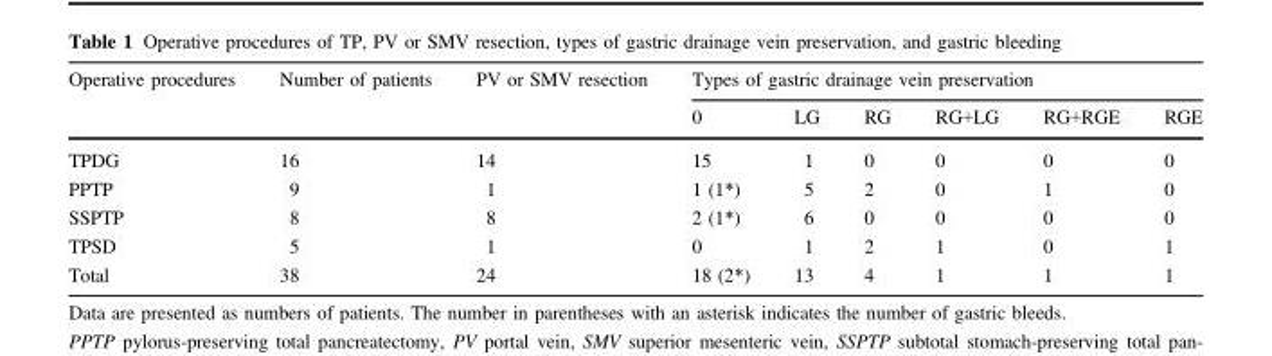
<table><thead><tr><td rowspan="2">Operative procedures</td><td rowspan="2">Number of patients</td><td rowspan="2">PV or SMV resection</td><td colspan="6">Types of gastric drainage vein preservation</td></tr><tr><td>0</td><td>LG</td><td>RG</td><td>RG+LG</td><td>RG+RGE</td><td>RGE</td></tr></thead><tbody><tr><td>TPDG</td><td>16</td><td>14</td><td>15</td><td>1</td><td>0</td><td>0</td><td>0</td><td>0</td></tr><tr><td>PPTP</td><td>9</td><td>1</td><td>1 (1*)</td><td>5</td><td>2</td><td>0</td><td>1</td><td>0</td></tr><tr><td>SSPTP</td><td>8</td><td>8</td><td>2 (1*)</td><td>6</td><td>0</td><td>0</td><td>0</td><td>0</td></tr><tr><td>TPSD</td><td>5</td><td>1</td><td>0</td><td>1</td><td>2</td><td>1</td><td>0</td><td>1</td></tr><tr><td>Total</td><td>38</td><td>24</td><td>18 (2*)</td><td>13</td><td>4</td><td>1</td><td>1</td><td>1</td></tr></tbody></table>